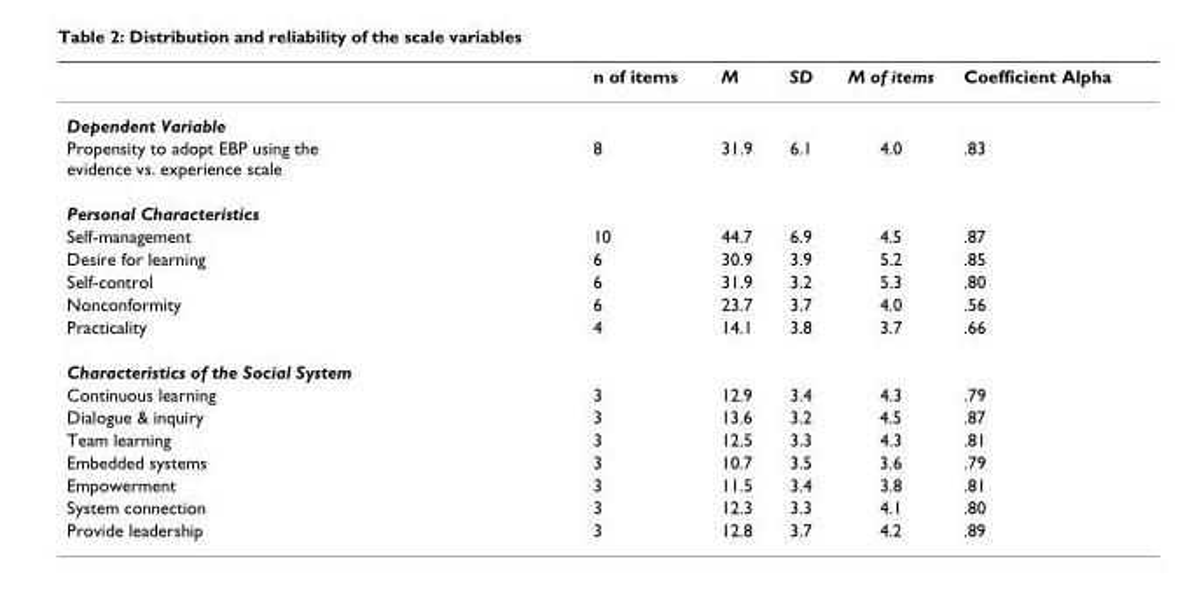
<table><thead><tr><td></td><td>n of items</td><td>M</td><td>SD</td><td>M of items</td><td>Coefficient Alpha</td></tr></thead><tbody><tr><td colspan="6">Dependent Variable</td></tr><tr><td>Propensity to adopt EBP using the evidence vs. experience scale</td><td>8</td><td>31.9</td><td>6.1</td><td>4.0</td><td>.83</td></tr><tr><td colspan="6">Personal Characteristics</td></tr><tr><td>Self-management</td><td>10</td><td>44.7</td><td>6.9</td><td>4.5</td><td>.87</td></tr><tr><td>Desire for learning</td><td>6</td><td>30.9</td><td>3.9</td><td>5.2</td><td>.85</td></tr><tr><td>Self-control</td><td>6</td><td>31.9</td><td>3.2</td><td>5.3</td><td>.80</td></tr><tr><td>Nonconformity</td><td>6</td><td>23.7</td><td>3.7</td><td>4.0</td><td>.56</td></tr><tr><td>Practicality</td><td>4</td><td>14.1</td><td>3.8</td><td>3.7</td><td>.66</td></tr><tr><td colspan="6">Characteristics of the Social System</td></tr><tr><td>Continuous learning</td><td>3</td><td>12.9</td><td>3.4</td><td>4.3</td><td>.79</td></tr><tr><td>Dialogue &amp; inquiry</td><td>3</td><td>13.6</td><td>3.2</td><td>4.5</td><td>.87</td></tr><tr><td>Team learning</td><td>3</td><td>12.5</td><td>3.3</td><td>4.3</td><td>.81</td></tr><tr><td>Embedded systems</td><td>3</td><td>10.7</td><td>3.5</td><td>3.6</td><td>.79</td></tr><tr><td>Empowerment</td><td>3</td><td>11.5</td><td>3.4</td><td>3.8</td><td>.81</td></tr><tr><td>System connection</td><td>3</td><td>12.3</td><td>3.3</td><td>4.1</td><td>.80</td></tr><tr><td>Provide leadership</td><td>3</td><td>12.8</td><td>3.7</td><td>4.2</td><td>.89</td></tr></tbody></table>